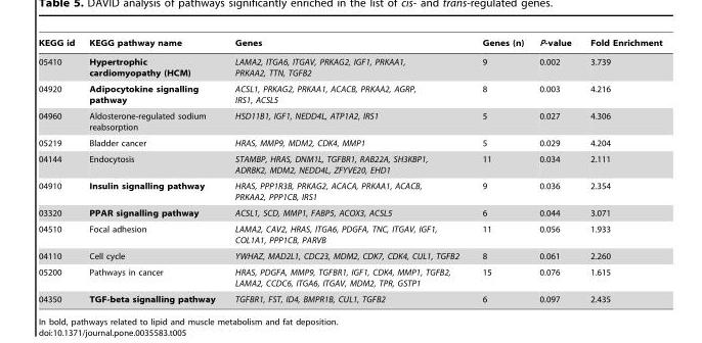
<table><thead><tr><td>KEGG id</td><td>KEGG pathway name</td><td>Genes</td><td>Genes (n)</td><td>P-value</td><td>Fold Enrichment</td></tr></thead><tbody><tr><td>05410</td><td>Hypertrophic cardiomyopathy (HCM)</td><td>LAMA2, ITGA6, ITGAV, PRKAG2, IGF1, PRKAA1, PRKAA2, TTN, TGFB2</td><td>9</td><td>0.002</td><td>3.739</td></tr><tr><td>04920</td><td>Adipocytokine signalling pathway</td><td>ACSL1, PRKAG2, PRKAA1, ACACB, PRKAA2, AGRP, IRS1, ACSL5</td><td>8</td><td>0.003</td><td>4.216</td></tr><tr><td>04960</td><td>Aldosterone-regulated sodium reabsorption</td><td>HSD11B1, IGF1, NEDD4L, ATP1A2, IRS1</td><td>5</td><td>0.027</td><td>4.306</td></tr><tr><td>05219</td><td>Bladder cancer</td><td>HRAS, MMP9, MDM2, CDK4, MMP1</td><td>5</td><td>0.029</td><td>4.204</td></tr><tr><td>04144</td><td>Endocytosis</td><td>STAMBP, HRAS, DNM1L, TGFBR1, RAB22A, SH3KBP1, ADRBK2, MDM2, NEDD4L, ZFYVE20, EHD1</td><td>11</td><td>0.034</td><td>2.111</td></tr><tr><td>04910</td><td>Insulin signalling pathway</td><td>HRAS, PPP1R3B, PRKAG2, ACACA, PRKAA1, ACACB, PRKAA2, PPP1CB, IRS1</td><td>9</td><td>0.036</td><td>2.354</td></tr><tr><td>03320</td><td>PPAR signalling pathway</td><td>ACSL1, SCD, MMP1, FABP5, ACOX3, ACSL5</td><td>6</td><td>0.044</td><td>3.071</td></tr><tr><td>04510</td><td>Focal adhesion</td><td>LAMA2, CAV2, HRAS, ITGA6, PDGFA, TNC, ITGAV, IGF1, COL1A1, PPP1CB, PARVB</td><td>11</td><td>0.056</td><td>1.933</td></tr><tr><td>04110</td><td>Cell cycle</td><td>YWHAZ, MAD2L1, CDC23, MDM2, CDK7, CDK4, CUL1, TGFB2</td><td>8</td><td>0.061</td><td>2.260</td></tr><tr><td>05200</td><td>Pathways in cancer</td><td>HRAS, PDGFA, MMP9, TGFBR1, IGF1, CDK4, MMP1, TGFB2, LAMA2, CCDC6, ITGA6, ITGAV, MDM2, TPR, GSTP1</td><td>15</td><td>0.076</td><td>1.615</td></tr><tr><td>04350</td><td>TGF-beta signalling pathway</td><td>TGFBR1, FST, ID4, BMPR1B, CUL1, TGFB2</td><td>6</td><td>0.097</td><td>2.435</td></tr></tbody></table>